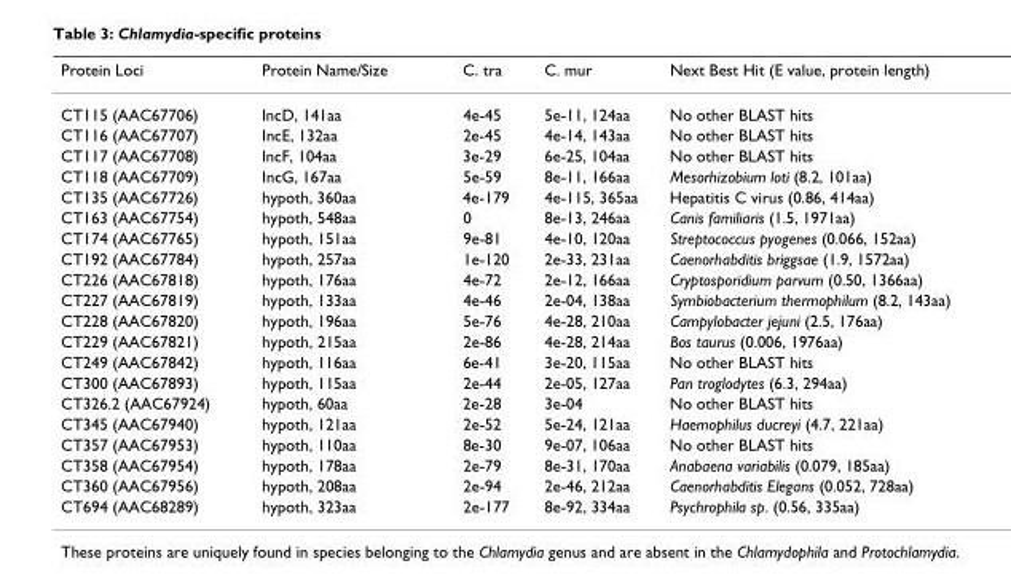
<table><thead><tr><td>Protein Loci</td><td>Protein Name/Size</td><td>C. tra</td><td>C. mur</td><td>Next Best Hit (E value, protein length)</td></tr></thead><tbody><tr><td>CT115 (AAC67706)</td><td>IncD, 141aa</td><td>4e-45</td><td>5e-11, 124aa</td><td>No other BLAST hits</td></tr><tr><td>CT116 (AAC67707)</td><td>IncE, 132aa</td><td>2e-45</td><td>4e-14, 143aa</td><td>No other BLAST hits</td></tr><tr><td>CT117 (AAC67708)</td><td>IncF, 104aa</td><td>3e-29</td><td>6e-25, 104aa</td><td>No other BLAST hits</td></tr><tr><td>CT118 (AAC67709)</td><td>IncG, 167aa</td><td>5e-59</td><td>8e-11, 166aa</td><td>Mesorhizobium loti (8.2, 101aa)</td></tr><tr><td>CT135 (AAC67726)</td><td>hypoth, 360aa</td><td>4e-179</td><td>4e-115, 365aa</td><td>Hepatitis C virus (0.86, 414aa)</td></tr><tr><td>CT163 (AAC67754)</td><td>hypoth, 548aa</td><td>0</td><td>8e-13, 246aa</td><td>Canis familiaris (1.5, 1971aa)</td></tr><tr><td>CT174 (AAC67765)</td><td>hypoth, 151aa</td><td>9e-81</td><td>4e-10, 120aa</td><td>Streptococcus pyogenes (0.066, 152aa)</td></tr><tr><td>CT192 (AAC67784)</td><td>hypoth, 257aa</td><td>1e-120</td><td>2e-33, 231aa</td><td>Caenorhabditis briggsae (1.9, 1572aa)</td></tr><tr><td>CT226 (AAC67818)</td><td>hypoth, 176aa</td><td>4e-72</td><td>2e-12, 166aa</td><td>Cryptosporidium parvum (0.50, 1366aa)</td></tr><tr><td>CT227 (AAC67819)</td><td>hypoth, 133aa</td><td>4e-46</td><td>2e-04, 138aa</td><td>Symbiobacterium thermophilum (8.2, 143aa)</td></tr><tr><td>CT228 (AAC67820)</td><td>hypoth, 196aa</td><td>5e-76</td><td>4e-28, 210aa</td><td>Campylobacter jejuni (2.5, 176aa)</td></tr><tr><td>CT229 (AAC67821)</td><td>hypoth, 215aa</td><td>2e-86</td><td>4e-28, 214aa</td><td>Bos taurus (0.006, 1976aa)</td></tr><tr><td>CT249 (AAC67842)</td><td>hypoth, 116aa</td><td>6e-41</td><td>3e-20, 115aa</td><td>No other BLAST hits</td></tr><tr><td>CT300 (AAC67893)</td><td>hypoth, 115aa</td><td>2e-44</td><td>2e-05, 127aa</td><td>Pan troglodytes (6.3, 294aa)</td></tr><tr><td>CT326.2 (AAC67924)</td><td>hypoth, 60aa</td><td>2e-28</td><td>3e-04</td><td>No other BLAST hits</td></tr><tr><td>CT345 (AAC67940)</td><td>hypoth, 121aa</td><td>2e-52</td><td>5e-24, 121aa</td><td>Haemophilus ducreyi (4.7, 221aa)</td></tr><tr><td>CT357 (AAC67953)</td><td>hypoth, 110aa</td><td>8e-30</td><td>9e-07, 106aa</td><td>No other BLAST hits</td></tr><tr><td>CT358 (AAC67954)</td><td>hypoth, 178aa</td><td>2e-79</td><td>8e-31, 170aa</td><td>Anabaena variabilis (0.079, 185aa)</td></tr><tr><td>CT360 (AAC67956)</td><td>hypoth, 208aa</td><td>2e-94</td><td>2e-46, 212aa</td><td>Caenorhabditis Elegans (0.052, 728aa)</td></tr><tr><td>CT694 (AAC68289)</td><td>hypoth, 323aa</td><td>2e-177</td><td>8e-92, 334aa</td><td>Psychrophila sp. (0.56, 335aa)</td></tr></tbody></table>